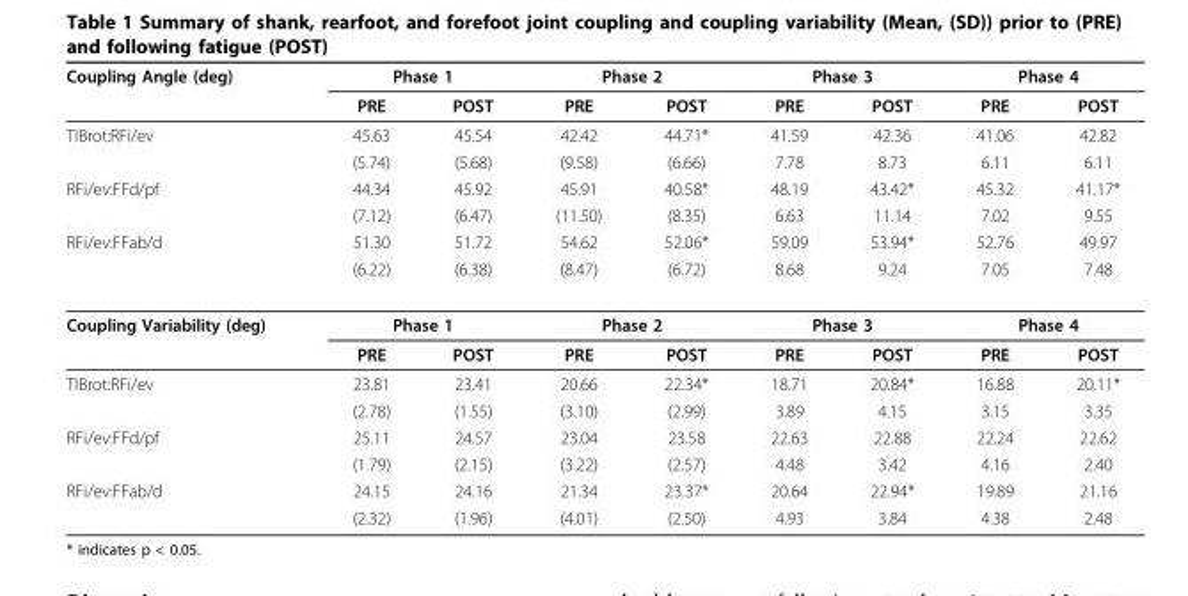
<table><thead><tr><td rowspan="2">Coupling Angle (deg)</td><td colspan="2">Phase 1</td><td colspan="2">Phase 2</td><td colspan="2">Phase 3</td><td colspan="2">Phase 4</td></tr><tr><td>PRE</td><td>POST</td><td>PRE</td><td>POST</td><td>PRE</td><td>POST</td><td>PRE</td><td>POST</td></tr></thead><tbody><tr><td rowspan="2">TIBrot:RFi/ev</td><td>45.63</td><td>45.54</td><td>42.42</td><td>44.71*</td><td>41.59</td><td>42.36</td><td>41.06</td><td>42.82</td></tr><tr><td>(5.74)</td><td>(5.68)</td><td>(9.58)</td><td>(6.66)</td><td>7.78</td><td>8.73</td><td>6.11</td><td>6.11</td></tr><tr><td rowspan="2">RFi/ev:FFd/pf</td><td>44.34</td><td>45.92</td><td>45.91</td><td>40.58*</td><td>48.19</td><td>43.42*</td><td>45.32</td><td>41.17*</td></tr><tr><td>(7.12)</td><td>(6.47)</td><td>(11.50)</td><td>(8.35)</td><td>6.63</td><td>11.14</td><td>7.02</td><td>9.55</td></tr><tr><td rowspan="2">RFi/ev:FFab/d</td><td>51.30</td><td>51.72</td><td>54.62</td><td>52.06*</td><td>59.09</td><td>53.94*</td><td>52.76</td><td>49.97</td></tr><tr><td>(6.22)</td><td>(6.38)</td><td>(8.47)</td><td>(6.72)</td><td>8.68</td><td>9.24</td><td>7.05</td><td>7.48</td></tr><tr><td rowspan="2">Coupling Variability (deg)</td><td colspan="2">Phase 1</td><td colspan="2">Phase 2</td><td colspan="2">Phase 3</td><td colspan="2">Phase 4</td></tr><tr><td>PRE</td><td>POST</td><td>PRE</td><td>POST</td><td>PRE</td><td>POST</td><td>PRE</td><td>POST</td></tr><tr><td rowspan="2">TIBrot:RFi/ev</td><td>23.81</td><td>23.41</td><td>20.66</td><td>22.34*</td><td>18.71</td><td>20.84*</td><td>16.88</td><td>20.11*</td></tr><tr><td>(2.78)</td><td>(1.55)</td><td>(3.10)</td><td>(2.99)</td><td>3.89</td><td>4.15</td><td>3.15</td><td>3.35</td></tr><tr><td rowspan="2">RFi/ev:FFd/pf</td><td>25.11</td><td>24.57</td><td>23.04</td><td>23.58</td><td>22.63</td><td>22.88</td><td>22.24</td><td>22.62</td></tr><tr><td>(1.79)</td><td>(2.15)</td><td>(3.22)</td><td>(2.57)</td><td>4.48</td><td>3.42</td><td>4.16</td><td>2.40</td></tr><tr><td rowspan="2">RFi/ev:FFab/d</td><td>24.15</td><td>24.16</td><td>21.34</td><td>23.37*</td><td>20.64</td><td>22.94*</td><td>19.89</td><td>21.16</td></tr><tr><td>(2.32)</td><td>(1.96)</td><td>(4.01)</td><td>(2.50)</td><td>4.93</td><td>3.84</td><td>4.38</td><td>2.48</td></tr></tbody></table>